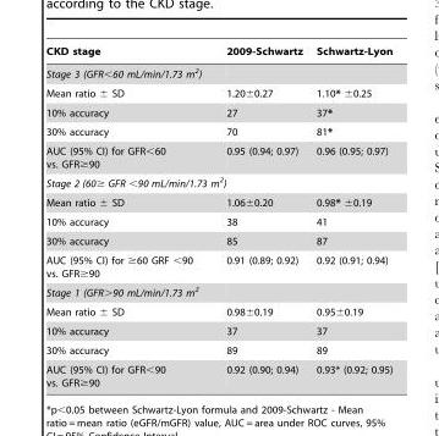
<table><thead><tr><td>CKD stage</td><td>2009-Schwartz</td><td>Schwartz-Lyon</td></tr></thead><tbody><tr><td colspan="3">Stage 3 (GFR&lt;60 mL/min/1.73 m<sup>2</sup>)</td></tr><tr><td>Mean ratio ± SD</td><td>1.20±0.27</td><td>1.10* ±0.25</td></tr><tr><td>10% accuracy</td><td>27</td><td>37*</td></tr><tr><td>30% accuracy</td><td>70</td><td>81*</td></tr><tr><td>AUC (95% CI) for GFR&lt;60 vs. GFR≥90</td><td>0.95 (0.94; 0.97)</td><td>0.96 (0.95; 0.97)</td></tr><tr><td colspan="3">Stage 2 (60≥ GFR &lt;90 mL/min/1.73 m<sup>2</sup>)</td></tr><tr><td>Mean ratio ± SD</td><td>1.06±0.20</td><td>0.98* ±0.19</td></tr><tr><td>10% accuracy</td><td>38</td><td>41</td></tr><tr><td>30% accuracy</td><td>85</td><td>87</td></tr><tr><td>AUC (95% CI) for ≥60 GRF &lt;90 vs. GFR≥90</td><td>0.91 (0.89; 0.92)</td><td>0.92 (0.91; 0.94)</td></tr><tr><td colspan="3">Stage 1 (GFR&gt;90 mL/min/1.73 m<sup>2</sup></td></tr><tr><td>Mean ratio ± SD</td><td>0.98±0.19</td><td>0.95±0.19</td></tr><tr><td>10% accuracy</td><td>37</td><td>37</td></tr><tr><td>30% accuracy</td><td>89</td><td>89</td></tr><tr><td>AUC (95% CI) for GFR&lt;90 vs. GFR≥90</td><td>0.92 (0.90; 0.94)</td><td>0.93* (0.92; 0.95)</td></tr></tbody></table>